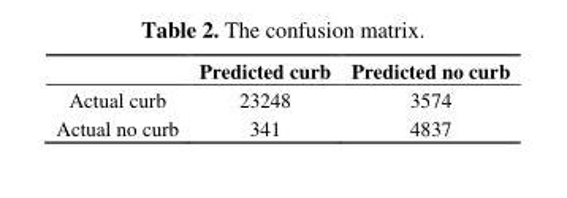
<table><thead><tr><td></td><td>Predicted curb</td><td>Predicted no curb</td></tr></thead><tbody><tr><td>Actual curb</td><td>23248</td><td>3574</td></tr><tr><td>Actual no curb</td><td>341</td><td>4837</td></tr></tbody></table>